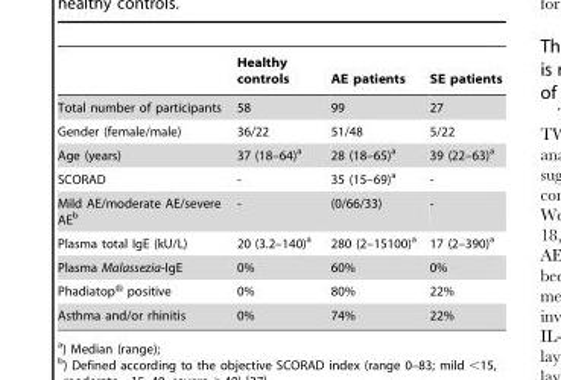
<table><thead><tr><td></td><td>Healthy controls</td><td>AE patients</td><td>SE patients</td></tr></thead><tbody><tr><td>Total number of participants</td><td>58</td><td>99</td><td>27</td></tr><tr><td>Gender (female/male)</td><td>36/22</td><td>51/48</td><td>5/22</td></tr><tr><td>Age (years)</td><td>37 (18–64)<sup>a</sup></td><td>28 (18–65)<sup>a</sup></td><td>39 (22–63)<sup>a</sup></td></tr><tr><td>SCORAD</td><td>-</td><td>35 (15–69)<sup>a</sup></td><td>-</td></tr><tr><td>Mild AE/moderate AE/severe AE<sup>b</sup></td><td>-</td><td>(0/66/33)</td><td>-</td></tr><tr><td>Plasma total IgE (kU/L)</td><td>20 (3.2–140)<sup>a</sup></td><td>280 (2–15100)<sup>a</sup></td><td>17 (2–390)<sup>a</sup></td></tr><tr><td>Plasma Malassezia-IgE</td><td>0%</td><td>60%</td><td>0%</td></tr><tr><td>Phadiatop® positive</td><td>0%</td><td>80%</td><td>22%</td></tr><tr><td>Asthma and/or rhinitis</td><td>0%</td><td>74%</td><td>22%</td></tr></tbody></table>